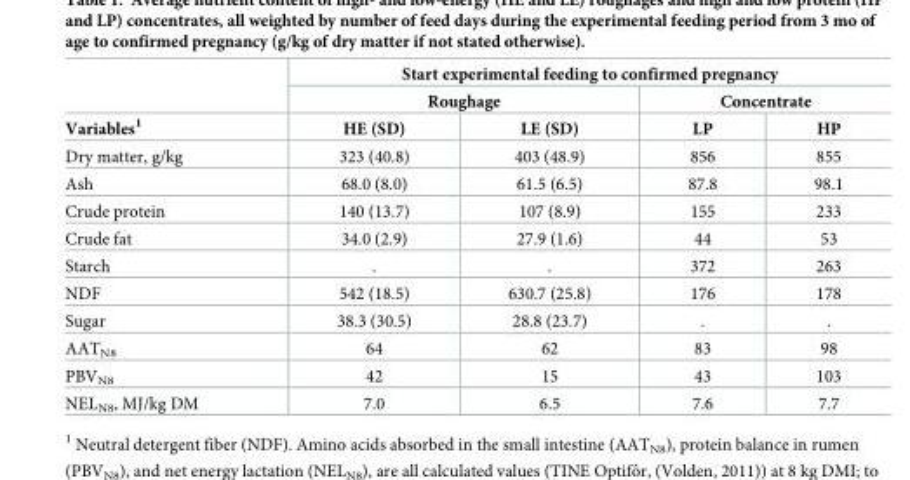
<table><thead><tr><td rowspan="3">Variables<sup>1</sup></td><td colspan="4">Start experimental feeding to confirmed pregnancy</td></tr><tr><td colspan="2">Roughage</td><td colspan="2">Concentrate</td></tr><tr><td>HE (SD)</td><td>LE (SD)</td><td>LP</td><td>HP</td></tr></thead><tbody><tr><td>Dry matter, g/kg</td><td>323 (40.8)</td><td>403 (48.9)</td><td>856</td><td>855</td></tr><tr><td>Ash</td><td>68.0 (8.0)</td><td>61.5 (6.5)</td><td>87.8</td><td>98.1</td></tr><tr><td>Crude protein</td><td>140 (13.7)</td><td>107 (8.9)</td><td>155</td><td>233</td></tr><tr><td>Crude fat</td><td>34.0 (2.9)</td><td>27.9 (1.6)</td><td>44</td><td>53</td></tr><tr><td>Starch</td><td>.</td><td>.</td><td>372</td><td>263</td></tr><tr><td>NDF</td><td>542 (18.5)</td><td>630.7 (25.8)</td><td>176</td><td>178</td></tr><tr><td>Sugar</td><td>38.3 (30.5)</td><td>28.8 (23.7)</td><td>.</td><td>.</td></tr><tr><td>AAT<sub>N8</sub></td><td>64</td><td>62</td><td>83</td><td>98</td></tr><tr><td>PBV<sub>N8</sub></td><td>42</td><td>15</td><td>43</td><td>103</td></tr><tr><td>NEL<sub>N8</sub>, MJ/kg DM</td><td>7.0</td><td>6.5</td><td>7.6</td><td>7.7</td></tr></tbody></table>